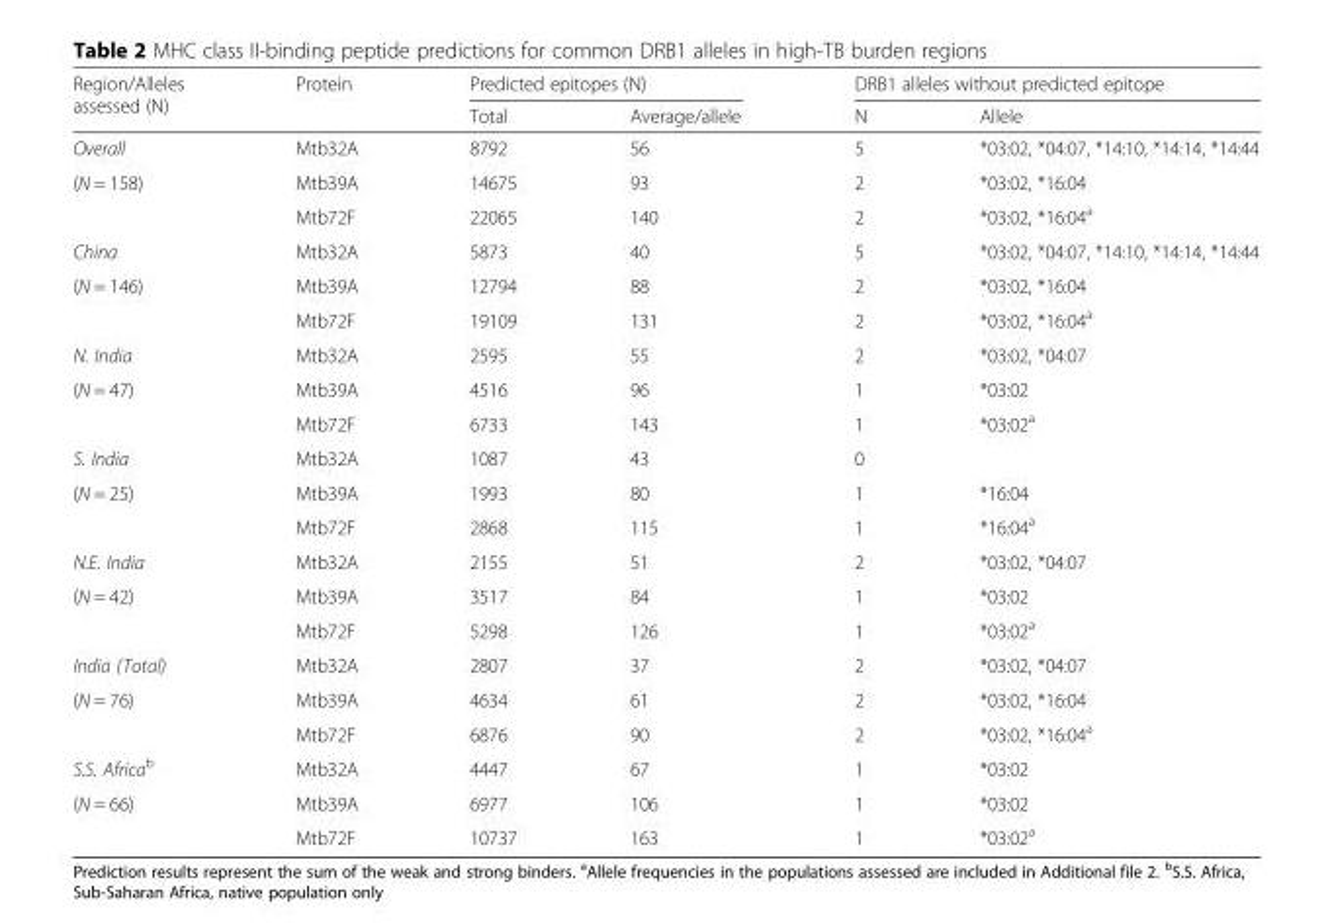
<table><thead><tr><td rowspan="2">Region/Alleles assessed (N)</td><td rowspan="2">Protein</td><td colspan="2">Predicted epitopes (N)</td><td colspan="2">DRB1 alleles without predicted epitope</td></tr><tr><td>Total</td><td>Average/allele</td><td>N</td><td>Allele</td></tr></thead><tbody><tr><td>Overall</td><td>Mtb32A</td><td>8792</td><td>56</td><td>5</td><td>*03:02, *04:07, *14:10, *14:14, *14:44</td></tr><tr><td rowspan="2">(N = 158)</td><td>Mtb39A</td><td>14675</td><td>93</td><td>2</td><td>*03:02, *16:04</td></tr><tr><td>Mtb72F</td><td>22065</td><td>140</td><td>2</td><td>*03:02, *16:04<sup>a</sup></td></tr><tr><td>China</td><td>Mtb32A</td><td>5873</td><td>40</td><td>5</td><td>*03:02, *04:07, *14:10, *14:14, *14:44</td></tr><tr><td rowspan="2">(N = 146)</td><td>Mtb39A</td><td>12794</td><td>88</td><td>2</td><td>*03:02, *16:04</td></tr><tr><td>Mtb72F</td><td>19109</td><td>131</td><td>2</td><td>*03:02, *16:04<sup>a</sup></td></tr><tr><td>N. India</td><td>Mtb32A</td><td>2595</td><td>55</td><td>2</td><td>*03:02, *04:07</td></tr><tr><td rowspan="2">(N = 47)</td><td>Mtb39A</td><td>4516</td><td>96</td><td>1</td><td>*03:02</td></tr><tr><td>Mtb72F</td><td>6733</td><td>143</td><td>1</td><td>*03:02<sup>a</sup></td></tr><tr><td>S. India</td><td>Mtb32A</td><td>1087</td><td>43</td><td>0</td><td></td></tr><tr><td rowspan="2">(N = 25)</td><td>Mtb39A</td><td>1993</td><td>80</td><td>1</td><td>*16:04</td></tr><tr><td>Mtb72F</td><td>2868</td><td>115</td><td>1</td><td>*16:04<sup>a</sup></td></tr><tr><td>N.E. India</td><td>Mtb32A</td><td>2155</td><td>51</td><td>2</td><td>*03:02, *04:07</td></tr><tr><td rowspan="2">(N = 42)</td><td>Mtb39A</td><td>3517</td><td>84</td><td>1</td><td>*03:02</td></tr><tr><td>Mtb72F</td><td>5298</td><td>126</td><td>1</td><td>*03:02<sup>a</sup></td></tr><tr><td>India (Total)</td><td>Mtb32A</td><td>2807</td><td>37</td><td>2</td><td>*03:02, *04:07</td></tr><tr><td rowspan="2">(N = 76)</td><td>Mtb39A</td><td>4634</td><td>61</td><td>2</td><td>*03:02, *16:04</td></tr><tr><td>Mtb72F</td><td>6876</td><td>90</td><td>2</td><td>*03:02, *16:04<sup>a</sup></td></tr><tr><td>S.S. Africa<sup>b</sup></td><td>Mtb32A</td><td>4447</td><td>67</td><td>1</td><td>*03:02</td></tr><tr><td rowspan="2">(N = 66)</td><td>Mtb39A</td><td>6977</td><td>106</td><td>1</td><td>*03:02</td></tr><tr><td>Mtb72F</td><td>10737</td><td>163</td><td>1</td><td>*03:02<sup>a</sup></td></tr></tbody></table>